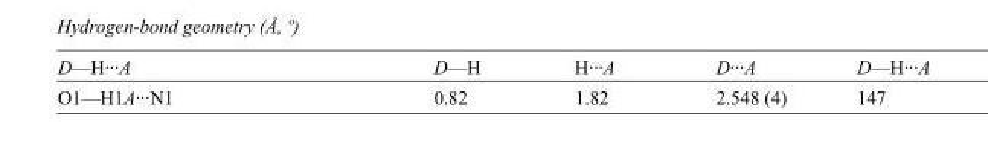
<table><tbody><tr><td>D—H···A</td><td>D—H</td><td>H···A</td><td>D···A</td><td>D—H···A</td></tr><tr><td>O1—H1A···N1</td><td>0.82</td><td>1.82</td><td>2.548 (4)</td><td>147</td></tr></tbody></table>